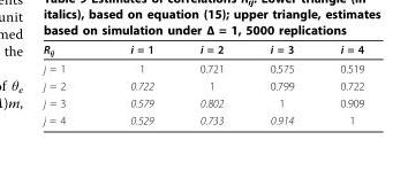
<table><thead><tr><td>R<sub>ij</sub></td><td>i = 1</td><td>i = 2</td><td>i = 3</td><td>i = 4</td></tr></thead><tbody><tr><td>j = 1</td><td>1</td><td>0.721</td><td>0.575</td><td>0.519</td></tr><tr><td>j = 2</td><td>0.722</td><td>1</td><td>0.799</td><td>0.722</td></tr><tr><td>j = 3</td><td>0.579</td><td>0.802</td><td>1</td><td>0.909</td></tr><tr><td>j = 4</td><td>0.529</td><td>0.733</td><td>0.914</td><td>1</td></tr></tbody></table>